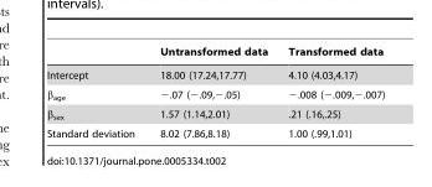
<table><thead><tr><td></td><td>Untransformed data</td><td>Transformed data</td></tr></thead><tbody><tr><td>Intercept</td><td>18.00 (17.24,17.77)</td><td>4.10 (4.03,4.17)</td></tr><tr><td>β<sub>age</sub></td><td>−.07 (−.09,−.05)</td><td>−.008 (−.009,−.007)</td></tr><tr><td>β<sub>sex</sub></td><td>1.57 (1.14,2.01)</td><td>.21 (.16,.25)</td></tr><tr><td>Standard deviation</td><td>8.02 (7.86,8.18)</td><td>1.00 (.99,1.01)</td></tr></tbody></table>